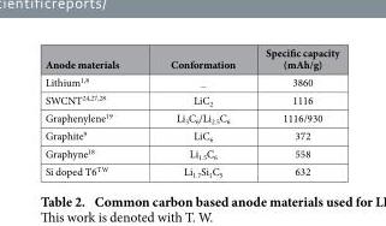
<table><thead><tr><td>Anode materials</td><td>Conformation</td><td>Specific capacity (mAh/g)</td></tr></thead><tbody><tr><td>Lithium<sup>1</sup>,<sup>8</sup></td><td><sub>—</sub></td><td>3860</td></tr><tr><td>SWCNT<sup>24</sup>,<sup>27</sup>,<sup>28</sup></td><td>LiC<sub>2</sub></td><td>1116</td></tr><tr><td>Graphenylene<sup>19</sup></td><td>Li<sub>3</sub>C<sub>6</sub>/Li<sub>2.5</sub>C<sub>6</sub></td><td>1116/930</td></tr><tr><td>Graphite<sup>9</sup></td><td>LiC<sub>6</sub></td><td>372</td></tr><tr><td>Graphyne<sup>18</sup></td><td>Li<sub>1.5</sub>C<sub>6</sub></td><td>558</td></tr><tr><td>Si doped T6<sup>T.W</sup></td><td>Li<sub>1.7</sub>Si<sub>1</sub>C<sub>5</sub></td><td>632</td></tr></tbody></table>